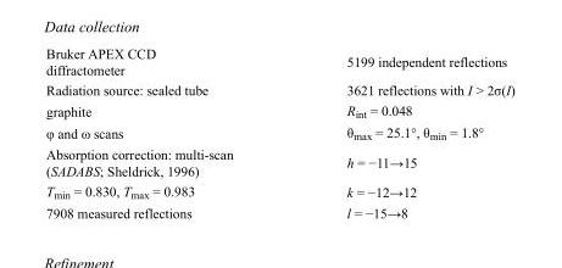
<table><tbody><tr><td>Bruker APEX CCD diffractometer</td><td>5199 independent reflections</td></tr><tr><td>Radiation source: sealed tube</td><td>3621 reflections with I &gt; 2σ(I)</td></tr><tr><td>graphite</td><td>R<sub>int</sub> = 0.048</td></tr><tr><td>φ and ω scans</td><td>θ<sub>max</sub> = 25.1°, θ<sub>min</sub> = 1.8°</td></tr><tr><td>Absorption correction: multi-scan (SADABS; Sheldrick, 1996)</td><td>h = −11→15</td></tr><tr><td>T<sub>min</sub> = 0.830, T<sub>max</sub> = 0.983</td><td>k = −12→12</td></tr><tr><td>7908 measured reflections</td><td>l = −15→8</td></tr></tbody></table>